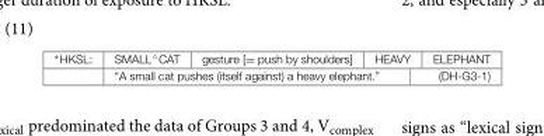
<table><tbody><tr><td rowspan="2">∗HKSL:</td><td>SMALL<sup>∧</sup>CAT</td><td>gesture [= push by shoulders]</td><td>HEAVY</td><td>ELEPHANT</td></tr><tr><td colspan="3">“A small cat pushes (itself against) a heavy elephant.”</td><td>(DH-G3-1)</td></tr></tbody></table>